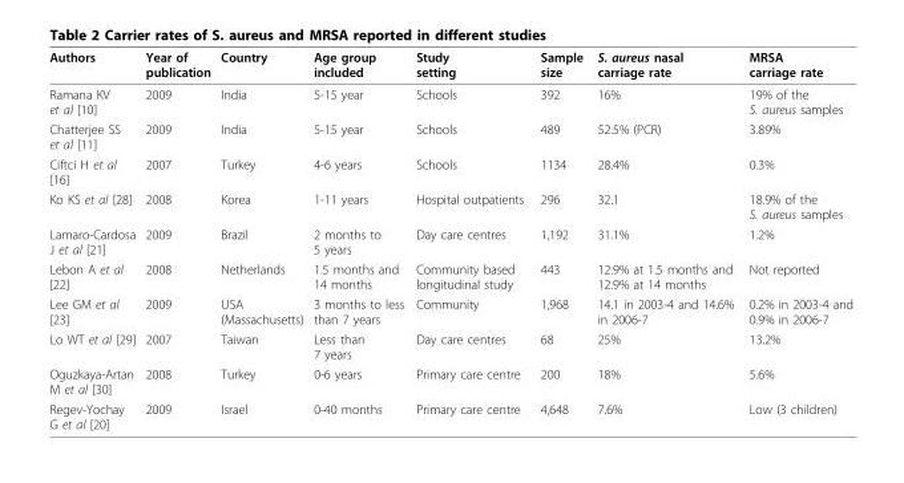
<table><thead><tr><td>Authors</td><td>Year of publication</td><td>Country</td><td>Age group included</td><td>Study setting</td><td>Sample size</td><td>S. aureus nasal carriage rate</td><td>MRSA carriage rate</td></tr></thead><tbody><tr><td>Ramana KV et al [10]</td><td>2009</td><td>India</td><td>5-15 year</td><td>Schools</td><td>392</td><td>16%</td><td>19% of the S. aureus samples</td></tr><tr><td>Chatterjee SS et al [11]</td><td>2009</td><td>India</td><td>5-15 year</td><td>Schools</td><td>489</td><td>52.5% (PCR)</td><td>3.89%</td></tr><tr><td>Ciftci H et al [16]</td><td>2007</td><td>Turkey</td><td>4-6 years</td><td>Schools</td><td>1134</td><td>28.4%</td><td>0.3%</td></tr><tr><td>Ko KS et al [28]</td><td>2008</td><td>Korea</td><td>1-11 years</td><td>Hospital outpatients</td><td>296</td><td>32.1</td><td>18.9% of the S. aureus samples</td></tr><tr><td>Lamaro-Cardosa J et al [21]</td><td>2009</td><td>Brazil</td><td>2 months to 5 years</td><td>Day care centres</td><td>1,192</td><td>31.1%</td><td>1.2%</td></tr><tr><td>Lebon A et al [22]</td><td>2008</td><td>Netherlands</td><td>1.5 months and 14 months</td><td>Community based longitudinal study</td><td>443</td><td>12.9% at 1.5 months and 12.9% at 14 months</td><td>Not reported</td></tr><tr><td>Lee GM et al [23]</td><td>2009</td><td>USA (Massachusetts)</td><td>3 months to less than 7 years</td><td>Community</td><td>1,968</td><td>14.1 in 2003-4 and 14.6% in 2006-7</td><td>0.2% in 2003-4 and 0.9% in 2006-7</td></tr><tr><td>Lo WT et al [29]</td><td>2007</td><td>Taiwan</td><td>Less than 7 years</td><td>Day care centres</td><td>68</td><td>25%</td><td>13.2%</td></tr><tr><td>Oguzkaya-Artan M et al [30]</td><td>2008</td><td>Turkey</td><td>0-6 years</td><td>Primary care centre</td><td>200</td><td>18%</td><td>5.6%</td></tr><tr><td>Regev-Yochay G et al [20]</td><td>2009</td><td>Israel</td><td>0-40 months</td><td>Primary care centre</td><td>4,648</td><td>7.6%</td><td>Low (3 children)</td></tr></tbody></table>